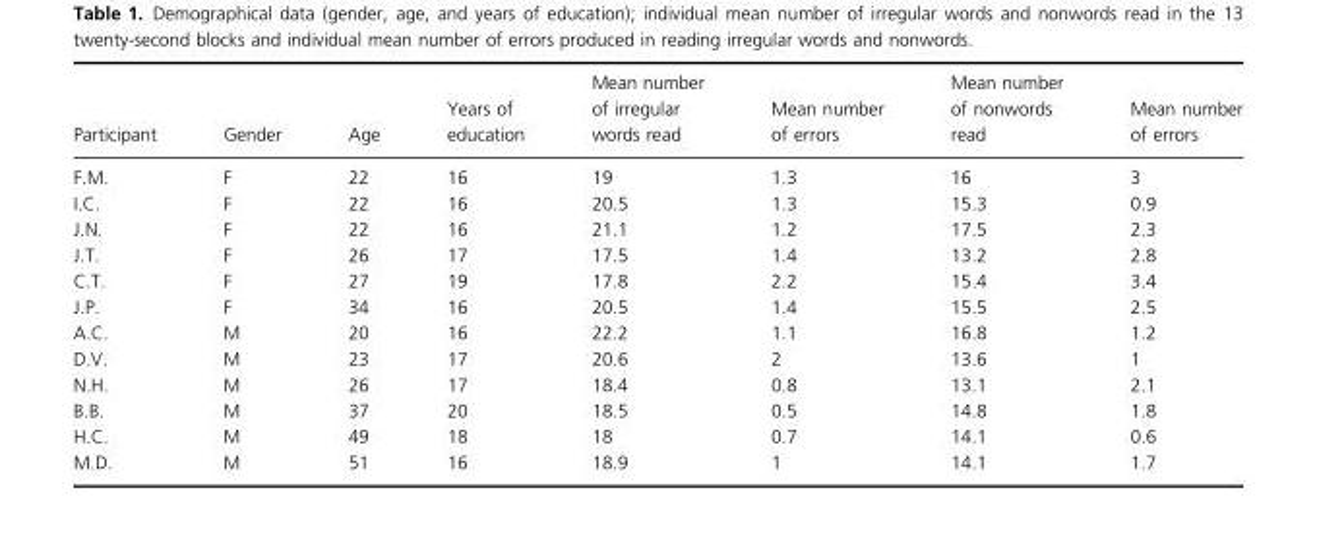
<table><thead><tr><td>Participant</td><td>Gender</td><td>Age</td><td>Years of education</td><td>Mean number of irregular words read</td><td>Mean number of errors</td><td>Mean number of nonwords read</td><td>Mean number of errors</td></tr></thead><tbody><tr><td>F.M.</td><td>F</td><td>22</td><td>16</td><td>19</td><td>1.3</td><td>16</td><td>3</td></tr><tr><td>I.C.</td><td>F</td><td>22</td><td>16</td><td>20.5</td><td>1.3</td><td>15.3</td><td>0.9</td></tr><tr><td>J.N.</td><td>F</td><td>22</td><td>16</td><td>21.1</td><td>1.2</td><td>17.5</td><td>2.3</td></tr><tr><td>J.T.</td><td>F</td><td>26</td><td>17</td><td>17.5</td><td>1.4</td><td>13.2</td><td>2.8</td></tr><tr><td>C.T.</td><td>F</td><td>27</td><td>19</td><td>17.8</td><td>2.2</td><td>15.4</td><td>3.4</td></tr><tr><td>J.P.</td><td>F</td><td>34</td><td>16</td><td>20.5</td><td>1.4</td><td>15.5</td><td>2.5</td></tr><tr><td>A.C.</td><td>M</td><td>20</td><td>16</td><td>22.2</td><td>1.1</td><td>16.8</td><td>1.2</td></tr><tr><td>D.V.</td><td>M</td><td>23</td><td>17</td><td>20.6</td><td>2</td><td>13.6</td><td>1</td></tr><tr><td>N.H.</td><td>M</td><td>26</td><td>17</td><td>18.4</td><td>0.8</td><td>13.1</td><td>2.1</td></tr><tr><td>B.B.</td><td>M</td><td>37</td><td>20</td><td>18.5</td><td>0.5</td><td>14.8</td><td>1.8</td></tr><tr><td>H.C.</td><td>M</td><td>49</td><td>18</td><td>18</td><td>0.7</td><td>14.1</td><td>0.6</td></tr><tr><td>M.D.</td><td>M</td><td>51</td><td>16</td><td>18.9</td><td>1</td><td>14.1</td><td>1.7</td></tr></tbody></table>